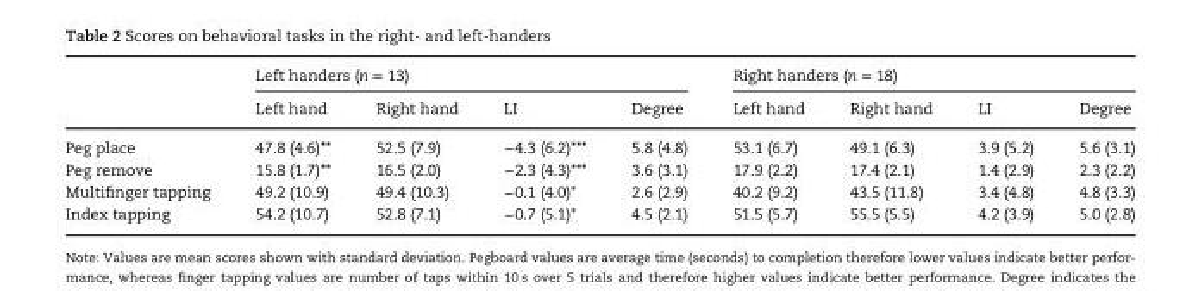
<table><thead><tr><td rowspan="2"></td><td colspan="4">Left handers (n = 13)</td><td colspan="4">Right handers (n = 18)</td></tr><tr><td>Left hand</td><td>Right hand</td><td>LI</td><td>Degree</td><td>Left hand</td><td>Right hand</td><td>LI</td><td>Degree</td></tr></thead><tbody><tr><td>Peg place</td><td>47.8 (4.6)**</td><td>52.5 (7.9)</td><td>−4.3 (6.2)***</td><td>5.8 (4.8)</td><td>53.1 (6.7)</td><td>49.1 (6.3)</td><td>3.9 (5.2)</td><td>5.6 (3.1)</td></tr><tr><td>Peg remove</td><td>15.8 (1.7)**</td><td>16.5 (2.0)</td><td>−2.3 (4.3)***</td><td>3.6 (3.1)</td><td>17.9 (2.2)</td><td>17.4 (2.1)</td><td>1.4 (2.9)</td><td>2.3 (2.2)</td></tr><tr><td>Multifinger tapping</td><td>49.2 (10.9)</td><td>49.4 (10.3)</td><td>−0.1 (4.0)*</td><td>2.6 (2.9)</td><td>40.2 (9.2)</td><td>43.5 (11.8)</td><td>3.4 (4.8)</td><td>4.8 (3.3)</td></tr><tr><td>Index tapping</td><td>54.2 (10.7)</td><td>52.8 (7.1)</td><td>−0.7 (5.1)*</td><td>4.5 (2.1)</td><td>51.5 (5.7)</td><td>55.5 (5.5)</td><td>4.2 (3.9)</td><td>5.0 (2.8)</td></tr></tbody></table>